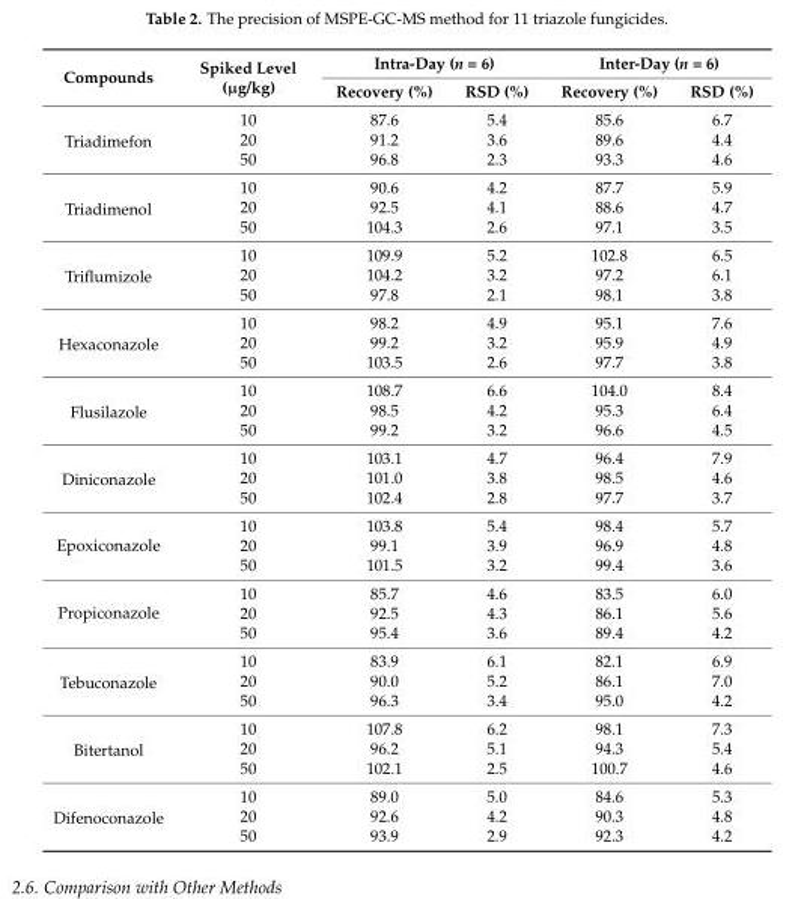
<table><thead><tr><td rowspan="2">Compounds</td><td rowspan="2">Spiked Level (µg/kg)</td><td colspan="2">Intra-Day (n = 6)</td><td colspan="2">Inter-Day (n = 6)</td></tr><tr><td>Recovery (%)</td><td>RSD (%)</td><td>Recovery (%)</td><td>RSD (%)</td></tr></thead><tbody><tr><td rowspan="3">Triadimefon</td><td>10</td><td>87.6</td><td>5.4</td><td>85.6</td><td>6.7</td></tr><tr><td>20</td><td>91.2</td><td>3.6</td><td>89.6</td><td>4.4</td></tr><tr><td>50</td><td>96.8</td><td>2.3</td><td>93.3</td><td>4.6</td></tr><tr><td rowspan="3">Triadimenol</td><td>10</td><td>90.6</td><td>4.2</td><td>87.7</td><td>5.9</td></tr><tr><td>20</td><td>92.5</td><td>4.1</td><td>88.6</td><td>4.7</td></tr><tr><td>50</td><td>104.3</td><td>2.6</td><td>97.1</td><td>3.5</td></tr><tr><td rowspan="3">Triflumizole</td><td>10</td><td>109.9</td><td>5.2</td><td>102.8</td><td>6.5</td></tr><tr><td>20</td><td>104.2</td><td>3.2</td><td>97.2</td><td>6.1</td></tr><tr><td>50</td><td>97.8</td><td>2.1</td><td>98.1</td><td>3.8</td></tr><tr><td rowspan="3">Hexaconazole</td><td>10</td><td>98.2</td><td>4.9</td><td>95.1</td><td>7.6</td></tr><tr><td>20</td><td>99.2</td><td>3.2</td><td>95.9</td><td>4.9</td></tr><tr><td>50</td><td>103.5</td><td>2.6</td><td>97.7</td><td>3.8</td></tr><tr><td rowspan="3">Flusilazole</td><td>10</td><td>108.7</td><td>6.6</td><td>104.0</td><td>8.4</td></tr><tr><td>20</td><td>98.5</td><td>4.2</td><td>95.3</td><td>6.4</td></tr><tr><td>50</td><td>99.2</td><td>3.2</td><td>96.6</td><td>4.5</td></tr><tr><td rowspan="3">Diniconazole</td><td>10</td><td>103.1</td><td>4.7</td><td>96.4</td><td>7.9</td></tr><tr><td>20</td><td>101.0</td><td>3.8</td><td>98.5</td><td>4.6</td></tr><tr><td>50</td><td>102.4</td><td>2.8</td><td>97.7</td><td>3.7</td></tr><tr><td rowspan="3">Epoxiconazole</td><td>10</td><td>103.8</td><td>5.4</td><td>98.4</td><td>5.7</td></tr><tr><td>20</td><td>99.1</td><td>3.9</td><td>96.9</td><td>4.8</td></tr><tr><td>50</td><td>101.5</td><td>3.2</td><td>99.4</td><td>3.6</td></tr><tr><td rowspan="3">Propiconazole</td><td>10</td><td>85.7</td><td>4.6</td><td>83.5</td><td>6.0</td></tr><tr><td>20</td><td>92.5</td><td>4.3</td><td>86.1</td><td>5.6</td></tr><tr><td>50</td><td>95.4</td><td>3.6</td><td>89.4</td><td>4.2</td></tr><tr><td rowspan="3">Tebuconazole</td><td>10</td><td>83.9</td><td>6.1</td><td>82.1</td><td>6.9</td></tr><tr><td>20</td><td>90.0</td><td>5.2</td><td>86.1</td><td>7.0</td></tr><tr><td>50</td><td>96.3</td><td>3.4</td><td>95.0</td><td>4.2</td></tr><tr><td rowspan="3">Bitertanol</td><td>10</td><td>107.8</td><td>6.2</td><td>98.1</td><td>7.3</td></tr><tr><td>20</td><td>96.2</td><td>5.1</td><td>94.3</td><td>5.4</td></tr><tr><td>50</td><td>102.1</td><td>2.5</td><td>100.7</td><td>4.6</td></tr><tr><td rowspan="3">Difenoconazole</td><td>10</td><td>89.0</td><td>5.0</td><td>84.6</td><td>5.3</td></tr><tr><td>20</td><td>92.6</td><td>4.2</td><td>90.3</td><td>4.8</td></tr><tr><td>50</td><td>93.9</td><td>2.9</td><td>92.3</td><td>4.2</td></tr></tbody></table>